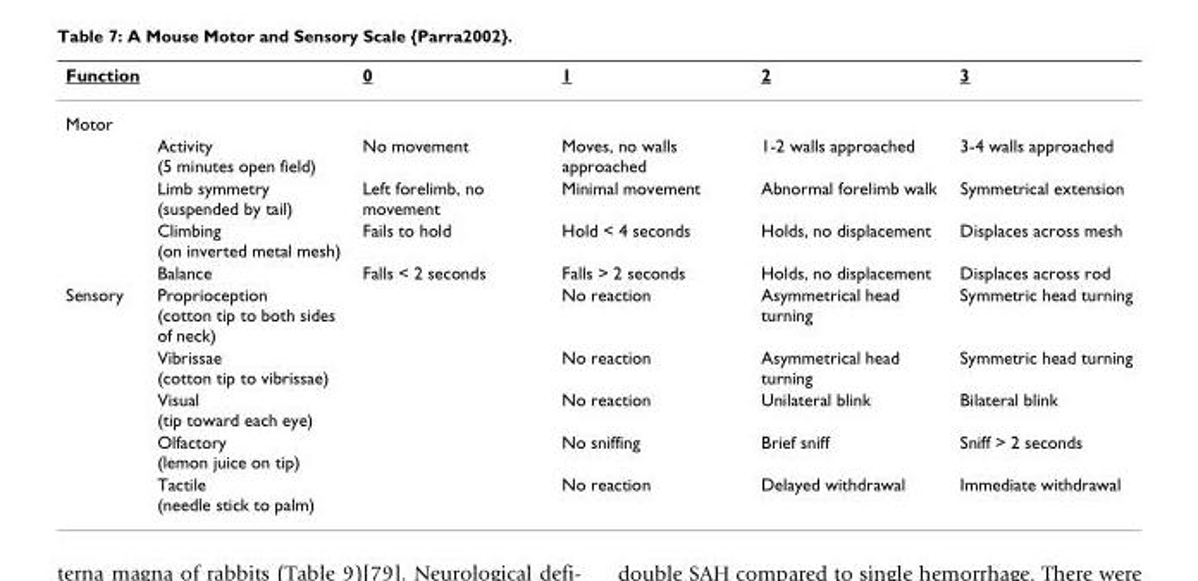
<table><thead><tr><td>Function</td><td></td><td>0</td><td>1</td><td>2</td><td>3</td></tr></thead><tbody><tr><td colspan="6">Motor</td></tr><tr><td></td><td>Activity (5 minutes open field)</td><td>No movement</td><td>Moves, no walls approached</td><td>1-2 walls approached</td><td>3-4 walls approached</td></tr><tr><td></td><td>Limb symmetry (suspended by tail)</td><td>Left forelimb, no movement</td><td>Minimal movement</td><td>Abnormal forelimb walk</td><td>Symmetrical extension</td></tr><tr><td></td><td>Climbing (on inverted metal mesh)</td><td>Fails to hold</td><td>Hold &lt; 4 seconds</td><td>Holds, no displacement</td><td>Displaces across mesh</td></tr><tr><td></td><td>Balance</td><td>Falls &lt; 2 seconds</td><td>Falls &gt; 2 seconds</td><td>Holds, no displacement</td><td>Displaces across rod</td></tr><tr><td rowspan="5">Sensory</td><td>Proprioception (cotton tip to both sides of neck)</td><td></td><td>No reaction</td><td>Asymmetrical head turning</td><td>Symmetric head turning</td></tr><tr><td>Vibrissae (cotton tip to vibrissae)</td><td></td><td>No reaction</td><td>Asymmetrical head turning</td><td>Symmetric head turning</td></tr><tr><td>Visual (tip toward each eye)</td><td></td><td>No reaction</td><td>Unilateral blink</td><td>Bilateral blink</td></tr><tr><td>Olfactory (lemon juice on tip)</td><td></td><td>No sniffing</td><td>Brief sniff</td><td>Sniff &gt; 2 seconds</td></tr><tr><td>Tactile (needle stick to palm)</td><td></td><td>No reaction</td><td>Delayed withdrawal</td><td>Immediate withdrawal</td></tr></tbody></table>